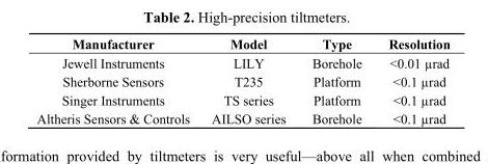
<table><thead><tr><td>Manufacturer</td><td>Model</td><td>Type</td><td>Resolution</td></tr></thead><tbody><tr><td>Jewell Instruments</td><td>LILY</td><td>Borehole</td><td>&lt;0.01 µrad</td></tr><tr><td>Sherborne Sensors</td><td>T235</td><td>Platform</td><td>&lt;0.1 µrad</td></tr><tr><td>Singer Instruments</td><td>TS series</td><td>Platform</td><td>&lt;0.1 µrad</td></tr><tr><td>Altheris Sensors &amp; Controls</td><td>AILSO series</td><td>Borehole</td><td>&lt;0.1 µrad</td></tr></tbody></table>